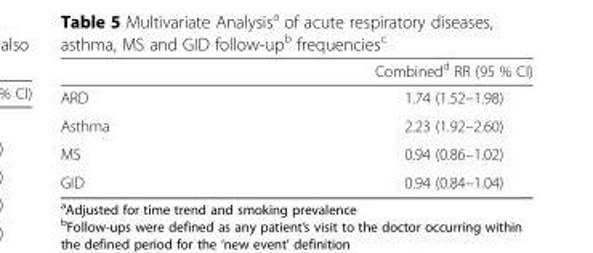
<table><thead><tr><td></td><td>Combined<sup>d</sup> RR (95 % CI)</td></tr></thead><tbody><tr><td>ARD</td><td>1.74 (1.52–1.98)</td></tr><tr><td>Asthma</td><td>2.23 (1.92–2.60)</td></tr><tr><td>MS</td><td>0.94 (0.86–1.02)</td></tr><tr><td>GID</td><td>0.94 (0.84–1.04)</td></tr></tbody></table>